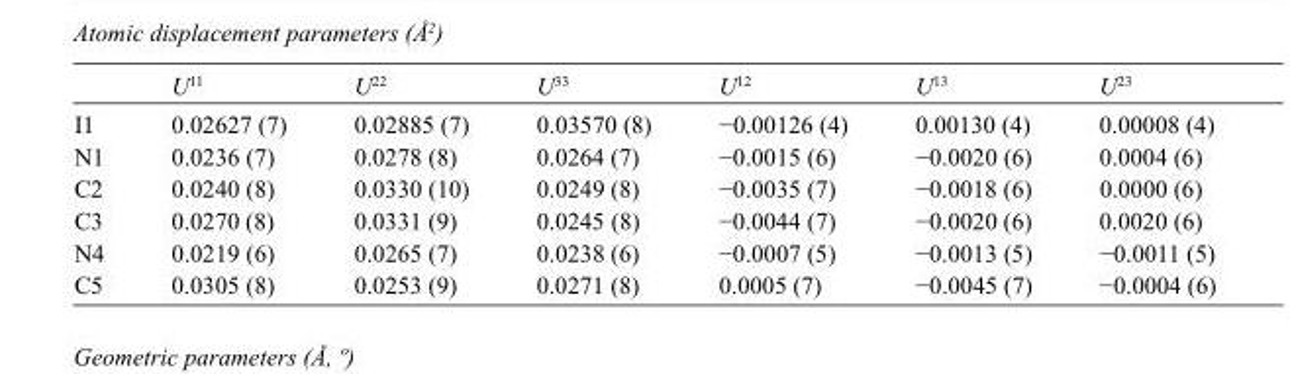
<table><thead><tr><td></td><td>U<sup>11</sup></td><td>U<sup>22</sup></td><td>U<sup>33</sup></td><td>U<sup>12</sup></td><td>U<sup>13</sup></td><td>U<sup>23</sup></td></tr></thead><tbody><tr><td>I1</td><td>0.02627 (7)</td><td>0.02885 (7)</td><td>0.03570 (8)</td><td>−0.00126 (4)</td><td>0.00130 (4)</td><td>0.00008 (4)</td></tr><tr><td>N1</td><td>0.0236 (7)</td><td>0.0278 (8)</td><td>0.0264 (7)</td><td>−0.0015 (6)</td><td>−0.0020 (6)</td><td>0.0004 (6)</td></tr><tr><td>C2</td><td>0.0240 (8)</td><td>0.0330 (10)</td><td>0.0249 (8)</td><td>−0.0035 (7)</td><td>−0.0018 (6)</td><td>0.0000 (6)</td></tr><tr><td>C3</td><td>0.0270 (8)</td><td>0.0331 (9)</td><td>0.0245 (8)</td><td>−0.0044 (7)</td><td>−0.0020 (6)</td><td>0.0020 (6)</td></tr><tr><td>N4</td><td>0.0219 (6)</td><td>0.0265 (7)</td><td>0.0238 (6)</td><td>−0.0007 (5)</td><td>−0.0013 (5)</td><td>−0.0011 (5)</td></tr><tr><td>C5</td><td>0.0305 (8)</td><td>0.0253 (9)</td><td>0.0271 (8)</td><td>0.0005 (7)</td><td>−0.0045 (7)</td><td>−0.0004 (6)</td></tr></tbody></table>